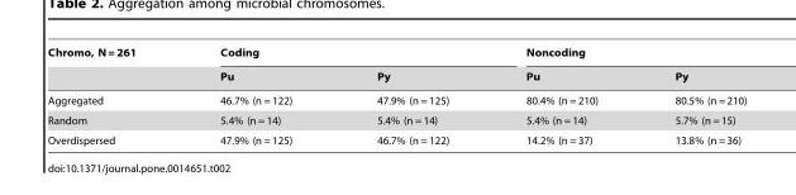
<table><thead><tr><td rowspan="2">Chromo, N = 261</td><td colspan="2">Coding</td><td colspan="2">Noncoding</td></tr><tr><td>Pu</td><td>Py</td><td>Pu</td><td>Py</td></tr></thead><tbody><tr><td>Aggregated</td><td>46.7% (n = 122)</td><td>47.9% (n = 125)</td><td>80.4% (n = 210)</td><td>80.5% (n = 210)</td></tr><tr><td>Random</td><td>5.4% (n = 14)</td><td>5.4% (n = 14)</td><td>5.4% (n = 14)</td><td>5.7% (n = 15)</td></tr><tr><td>Overdispersed</td><td>47.9% (n = 125)</td><td>46.7% (n = 122)</td><td>14.2% (n = 37)</td><td>13.8% (n = 36)</td></tr></tbody></table>